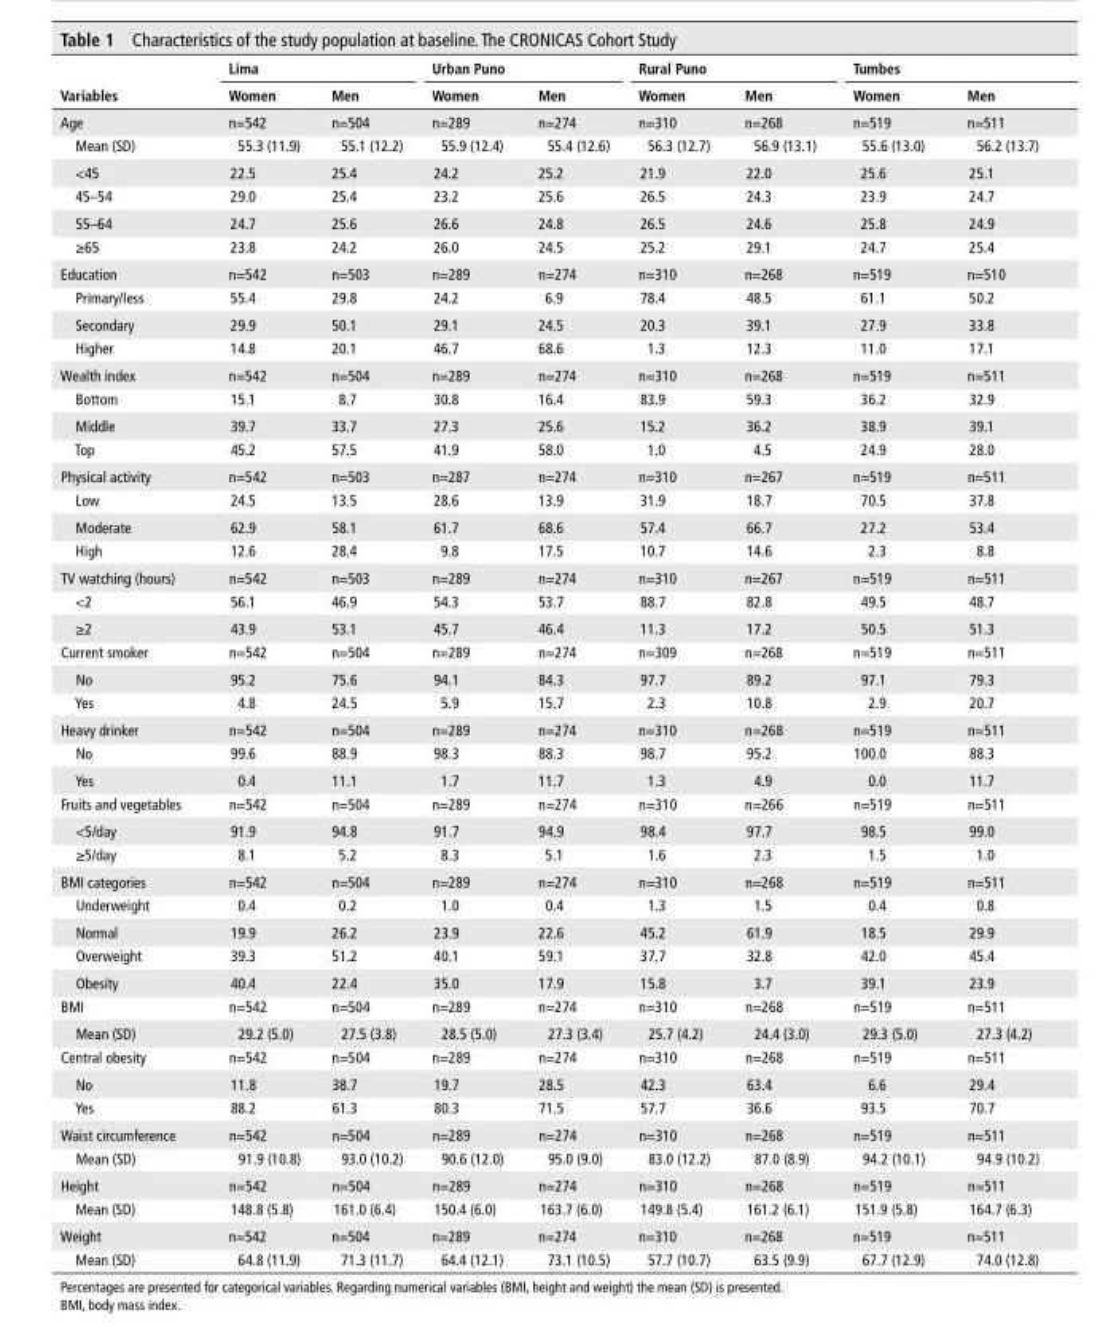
<table><thead><tr><td rowspan="2">Variables</td><td colspan="2">lima</td><td colspan="2">urban Puno</td><td colspan="2">rural Puno</td><td colspan="2">Tumbes</td></tr><tr><td>Women</td><td>Men</td><td>Women</td><td>Men</td><td>Women</td><td>Men</td><td>Women</td><td>Men</td></tr></thead><tbody><tr><td>Age</td><td>n=542</td><td>n=504</td><td>n=289</td><td>n=274</td><td>n=310</td><td>n=268</td><td>n=519</td><td>n=511</td></tr><tr><td>Mean (SD)</td><td>55.3 (11.9)</td><td>55.1 (12.2)</td><td>55.9 (12.4)</td><td>55.4 (12.6)</td><td>56.3 (12.7)</td><td>56.9 (13.1)</td><td>55.6 (13.0)</td><td>56.2 (13.7)</td></tr><tr><td>&lt;45</td><td>22.5</td><td>25.4</td><td>24.2</td><td>25.2</td><td>21.9</td><td>22.0</td><td>25.6</td><td>25.1</td></tr><tr><td>45–54</td><td>29.0</td><td>25.4</td><td>23.2</td><td>25.6</td><td>26.5</td><td>24.3</td><td>23.9</td><td>24.7</td></tr><tr><td>55–64</td><td>24.7</td><td>25.6</td><td>26.6</td><td>24.8</td><td>26.5</td><td>24.6</td><td>25.8</td><td>24.9</td></tr><tr><td>≥65</td><td>23.8</td><td>24.2</td><td>26.0</td><td>24.5</td><td>25.2</td><td>29.1</td><td>24.7</td><td>25.4</td></tr><tr><td>Education</td><td>n=542</td><td>n=503</td><td>n=289</td><td>n=274</td><td>n=310</td><td>n=268</td><td>n=519</td><td>n=510</td></tr><tr><td>Primary/less</td><td>55.4</td><td>29.8</td><td>24.2</td><td>6.9</td><td>78.4</td><td>48.5</td><td>61.1</td><td>50.2</td></tr><tr><td>Secondary</td><td>29.9</td><td>50.1</td><td>29.1</td><td>24.5</td><td>20.3</td><td>39.1</td><td>27.9</td><td>33.8</td></tr><tr><td>Higher</td><td>14.8</td><td>20.1</td><td>46.7</td><td>68.6</td><td>1.3</td><td>12.3</td><td>11.0</td><td>17.1</td></tr><tr><td>Wealth index</td><td>n=542</td><td>n=504</td><td>n=289</td><td>n=274</td><td>n=310</td><td>n=268</td><td>n=519</td><td>n=511</td></tr><tr><td>Bottom</td><td>15.1</td><td>8.7</td><td>30.8</td><td>16.4</td><td>83.9</td><td>59.3</td><td>36.2</td><td>32.9</td></tr><tr><td>Middle</td><td>39.7</td><td>33.7</td><td>27.3</td><td>25.6</td><td>15.2</td><td>36.2</td><td>38.9</td><td>39.1</td></tr><tr><td>Top</td><td>45.2</td><td>57.5</td><td>41.9</td><td>58.0</td><td>1.0</td><td>4.5</td><td>24.9</td><td>28.0</td></tr><tr><td>Physical activity</td><td>n=542</td><td>n=503</td><td>n=287</td><td>n=274</td><td>n=310</td><td>n=267</td><td>n=519</td><td>n=511</td></tr><tr><td>Low</td><td>24.5</td><td>13.5</td><td>28.6</td><td>13.9</td><td>31.9</td><td>18.7</td><td>70.5</td><td>37.8</td></tr><tr><td>Moderate</td><td>62.9</td><td>58.1</td><td>61.7</td><td>68.6</td><td>57.4</td><td>66.7</td><td>27.2</td><td>53.4</td></tr><tr><td>High</td><td>12.6</td><td>28.4</td><td>9.8</td><td>17.5</td><td>10.7</td><td>14.6</td><td>2.3</td><td>8.8</td></tr><tr><td>TV watching (hours)</td><td>n=542</td><td>n=503</td><td>n=289</td><td>n=274</td><td>n=310</td><td>n=267</td><td>n=519</td><td>n=511</td></tr><tr><td>&lt;2</td><td>56.1</td><td>46.9</td><td>54.3</td><td>53.7</td><td>88.7</td><td>82.8</td><td>49.5</td><td>48.7</td></tr><tr><td>≥2</td><td>43.9</td><td>53.1</td><td>45.7</td><td>46.4</td><td>11.3</td><td>17.2</td><td>50.5</td><td>51.3</td></tr><tr><td>Current smoker</td><td>n=542</td><td>n=504</td><td>n=289</td><td>n=274</td><td>n=309</td><td>n=268</td><td>n=519</td><td>n=511</td></tr><tr><td>No</td><td>95.2</td><td>75.6</td><td>94.1</td><td>84.3</td><td>97.7</td><td>89.2</td><td>97.1</td><td>79.3</td></tr><tr><td>Yes</td><td>4.8</td><td>24.5</td><td>5.9</td><td>15.7</td><td>2.3</td><td>10.8</td><td>2.9</td><td>20.7</td></tr><tr><td>Heavy drinker</td><td>n=542</td><td>n=504</td><td>n=289</td><td>n=274</td><td>n=310</td><td>n=268</td><td>n=519</td><td>n=511</td></tr><tr><td>No</td><td>99.6</td><td>88.9</td><td>98.3</td><td>88.3</td><td>98.7</td><td>95.2</td><td>100.0</td><td>88.3</td></tr><tr><td>Yes</td><td>0.4</td><td>11.1</td><td>1.7</td><td>11.7</td><td>1.3</td><td>4.9</td><td>0.0</td><td>11.7</td></tr><tr><td>Fruits and vegetables</td><td>n=542</td><td>n=504</td><td>n=289</td><td>n=274</td><td>n=310</td><td>n=266</td><td>n=519</td><td>n=511</td></tr><tr><td>&lt;5/day</td><td>91.9</td><td>94.8</td><td>91.7</td><td>94.9</td><td>98.4</td><td>97.7</td><td>98.5</td><td>99.0</td></tr><tr><td>≥5/day</td><td>8.1</td><td>5.2</td><td>8.3</td><td>5.1</td><td>1.6</td><td>2.3</td><td>1.5</td><td>1.0</td></tr><tr><td>BMI categories</td><td>n=542</td><td>n=504</td><td>n=289</td><td>n=274</td><td>n=310</td><td>n=268</td><td>n=519</td><td>n=511</td></tr><tr><td>Underweight</td><td>0.4</td><td>0.2</td><td>1.0</td><td>0.4</td><td>1.3</td><td>1.5</td><td>0.4</td><td>0.8</td></tr><tr><td>Normal</td><td>19.9</td><td>26.2</td><td>23.9</td><td>22.6</td><td>45.2</td><td>61.9</td><td>18.5</td><td>29.9</td></tr><tr><td>Overweight</td><td>39.3</td><td>51.2</td><td>40.1</td><td>59.1</td><td>37.7</td><td>32.8</td><td>42.0</td><td>45.4</td></tr><tr><td>Obesity</td><td>40.4</td><td>22.4</td><td>35.0</td><td>17.9</td><td>15.8</td><td>3.7</td><td>39.1</td><td>23.9</td></tr><tr><td>BMI</td><td>n=542</td><td>n=504</td><td>n=289</td><td>n=274</td><td>n=310</td><td>n=268</td><td>n=519</td><td>n=511</td></tr><tr><td>Mean (SD)</td><td>29.2 (5.0)</td><td>27.5 (3.8)</td><td>28.5 (5.0)</td><td>27.3 (3.4)</td><td>25.7 (4.2)</td><td>24.4 (3.0)</td><td>29.3 (5.0)</td><td>27.3 (4.2)</td></tr><tr><td>Central obesity</td><td>n=542</td><td>n=504</td><td>n=289</td><td>n=274</td><td>n=310</td><td>n=268</td><td>n=519</td><td>n=511</td></tr><tr><td>No</td><td>11.8</td><td>38.7</td><td>19.7</td><td>28.5</td><td>42.3</td><td>63.4</td><td>6.6</td><td>29.4</td></tr><tr><td>Yes</td><td>88.2</td><td>61.3</td><td>80.3</td><td>71.5</td><td>57.7</td><td>36.6</td><td>93.5</td><td>70.7</td></tr><tr><td>Waist circumference</td><td>n=542</td><td>n=504</td><td>n=289</td><td>n=274</td><td>n=310</td><td>n=268</td><td>n=519</td><td>n=511</td></tr><tr><td>Mean (SD)</td><td>91.9 (10.8)</td><td>93.0 (10.2)</td><td>90.6 (12.0)</td><td>95.0 (9.0)</td><td>83.0 (12.2)</td><td>87.0 (8.9)</td><td>94.2 (10.1)</td><td>94.9 (10.2)</td></tr><tr><td>Height</td><td>n=542</td><td>n=504</td><td>n=289</td><td>n=274</td><td>n=310</td><td>n=268</td><td>n=519</td><td>n=511</td></tr><tr><td>Mean (SD)</td><td>148.8 (5.8)</td><td>161.0 (6.4)</td><td>150.4 (6.0)</td><td>163.7 (6.0)</td><td>149.8 (5.4)</td><td>161.2 (6.1)</td><td>151.9 (5.8)</td><td>164.7 (6.3)</td></tr><tr><td>Weight</td><td>n=542</td><td>n=504</td><td>n=289</td><td>n=274</td><td>n=310</td><td>n=268</td><td>n=519</td><td>n=511</td></tr><tr><td>Mean (SD)</td><td>64.8 (11.9)</td><td>71.3 (11.7)</td><td>64.4 (12.1)</td><td>73.1 (10.5)</td><td>57.7 (10.7)</td><td>63.5 (9.9)</td><td>67.7 (12.9)</td><td>74.0 (12.8)</td></tr></tbody></table>